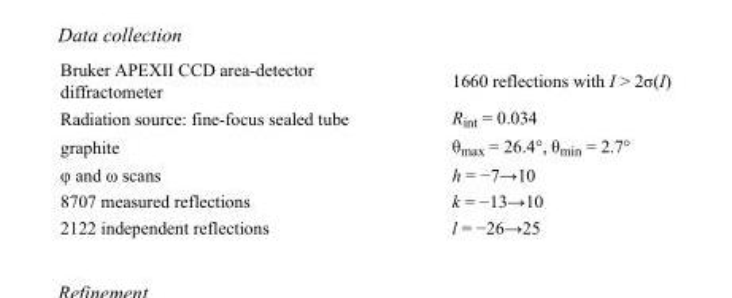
<table><tbody><tr><td>Bruker APEXII CCD area-detector diffractometer</td><td>1660 reflections with I &gt; 2σ(I)</td></tr><tr><td>Radiation source: fine-focus sealed tube</td><td>R<sub>int</sub> = 0.034</td></tr><tr><td>graphite</td><td>θ<sub>max</sub> = 26.4°, θ<sub>min</sub> = 2.7°</td></tr><tr><td>φ and ω scans</td><td>h = −7→10</td></tr><tr><td>8707 measured reflections</td><td>k = −13→10</td></tr><tr><td>2122 independent reflections</td><td>l = −26→25</td></tr></tbody></table>